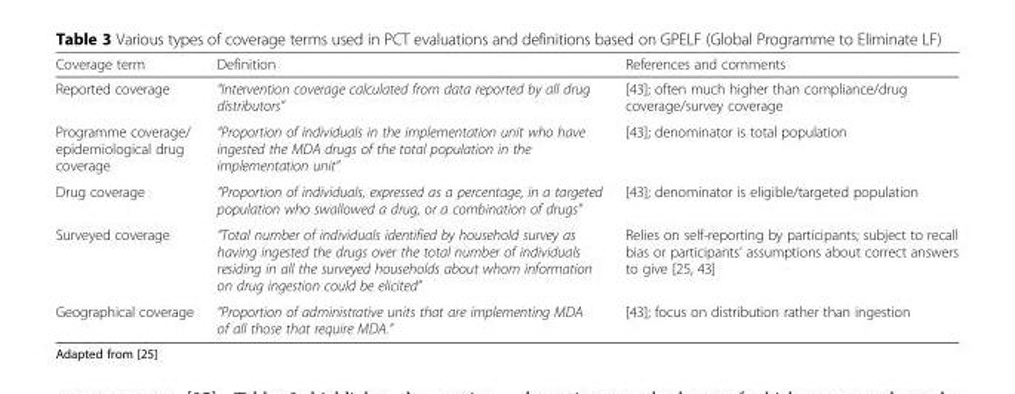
<table><thead><tr><td>Coverage term</td><td>Definition</td><td>References and comments</td></tr></thead><tbody><tr><td>Reported coverage</td><td>“Intervention coverage calculated from data reported by all drug distributors”</td><td>[43]; often much higher than compliance/drug coverage/survey coverage</td></tr><tr><td>Programme coverage/ epidemiological drug coverage</td><td>“Proportion of individuals in the implementation unit who have ingested the MDA drugs of the total population in the implementation unit”</td><td>[43]; denominator is total population</td></tr><tr><td>Drug coverage</td><td>“Proportion of individuals, expressed as a percentage, in a targeted population who swallowed a drug, or a combination of drugs”</td><td>[43]; denominator is eligible/targeted population</td></tr><tr><td>Surveyed coverage</td><td>“Total number of individuals identified by household survey as having ingested the drugs over the total number of individuals residing in all the surveyed households about whom information on drug ingestion could be elicited”</td><td>Relies on self-reporting by participants; subject to recall bias or participants’ assumptions about correct answers to give [25, 43]</td></tr><tr><td>Geographical coverage</td><td>“Proportion of administrative units that are implementing MDA of all those that require MDA.”</td><td>[43]; focus on distribution rather than ingestion</td></tr></tbody></table>